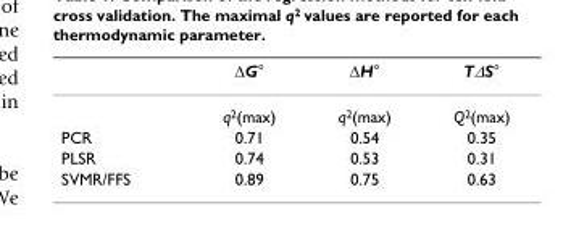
<table><thead><tr><td></td><td>∆G°</td><td>∆H°</td><td>T∆S°</td></tr></thead><tbody><tr><td></td><td>q2(max)</td><td>q<sup>2</sup>(max)</td><td>Q<sup>2</sup>(max)</td></tr><tr><td>PCR</td><td>0.71</td><td>0.54</td><td>0.35</td></tr><tr><td>PLSR</td><td>0.74</td><td>0.53</td><td>0.31</td></tr><tr><td>SVMR/FFS</td><td>0.89</td><td>0.75</td><td>0.63</td></tr></tbody></table>